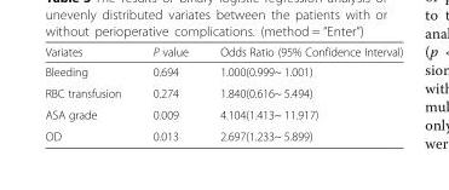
<table><thead><tr><td>Variates</td><td>P value</td><td>Odds Ratio (95% Confidence Interval)</td></tr></thead><tbody><tr><td>Bleeding</td><td>0.694</td><td>1.000(0.999~ 1.001)</td></tr><tr><td>RBC transfusion</td><td>0.274</td><td>1.840(0.616~ 5.494)</td></tr><tr><td>ASA grade</td><td>0.009</td><td>4.104(1.413~ 11.917)</td></tr><tr><td>OD</td><td>0.013</td><td>2.697(1.233~ 5.899)</td></tr></tbody></table>